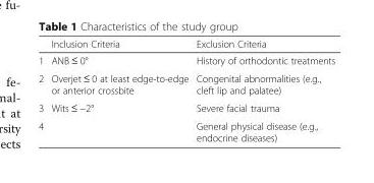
<table><thead><tr><td></td><td>Inclusion Criteria</td><td>Exclusion Criteria</td></tr></thead><tbody><tr><td>1</td><td>ANB ≤ 0°</td><td>History of orthodontic treatments</td></tr><tr><td>2</td><td>Overjet ≤ 0 at least edge-to-edge or anterior crossbite</td><td>Congenital abnormalities (e.g., cleft lip and palatee)</td></tr><tr><td>3</td><td>Wits ≤ −2°</td><td>Severe facial trauma</td></tr><tr><td>4</td><td></td><td>General physical disease (e.g., endocrine diseases)</td></tr></tbody></table>